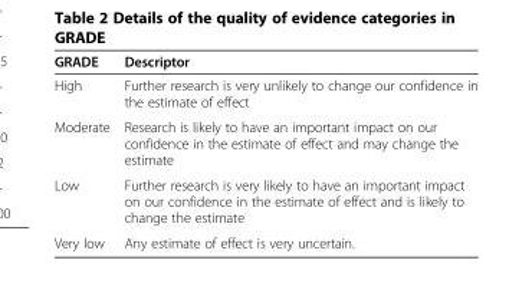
<table><thead><tr><td>GRADE</td><td>Descriptor</td></tr></thead><tbody><tr><td>High</td><td>Further research is very unlikely to change our confidence in the estimate of effect</td></tr><tr><td>Moderate</td><td>Research is likely to have an important impact on our confidence in the estimate of effect and may change the estimate</td></tr><tr><td>Low</td><td>Further research is very likely to have an important impact on our confidence in the estimate of effect and is likely to change the estimate</td></tr><tr><td>Very low</td><td>Any estimate of effect is very uncertain.</td></tr></tbody></table>